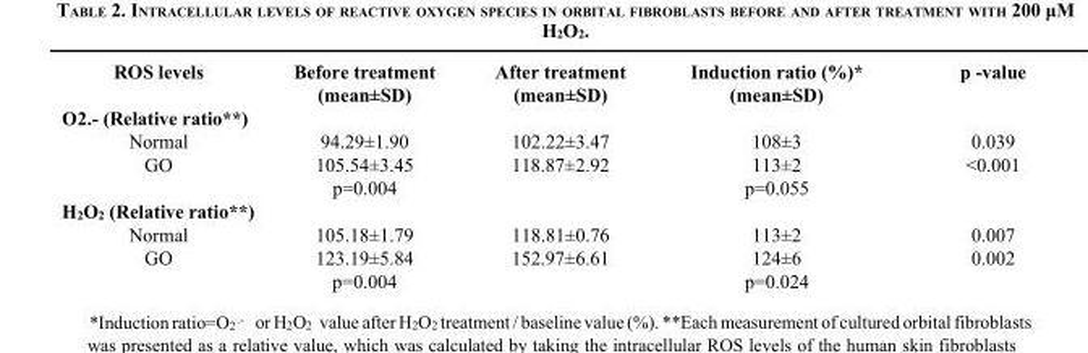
<table><thead><tr><td>ROS levels</td><td>Before treatment (mean±SD)</td><td>After treatment (mean±SD)</td><td>Induction ratio (%)* (mean±SD)</td><td>p -value</td></tr></thead><tbody><tr><td colspan="5">O2.- (Relative ratio**)</td></tr><tr><td>Normal</td><td>94.29±1.90</td><td>102.22±3.47</td><td>108±3</td><td>0.039</td></tr><tr><td rowspan="2">GO</td><td>105.54±3.45</td><td>118.87±2.92</td><td>113±2</td><td>&lt;0.001</td></tr><tr><td>p=0.004</td><td></td><td>p=0.055</td><td></td></tr><tr><td colspan="5">H<sub>2</sub>O<sub>2</sub> (Relative ratio**)</td></tr><tr><td>Normal</td><td>105.18±1.79</td><td>118.81±0.76</td><td>113±2</td><td>0.007</td></tr><tr><td rowspan="2">GO</td><td>123.19±5.84</td><td>152.97±6.61</td><td>124±6</td><td>0.002</td></tr><tr><td>p=0.004</td><td></td><td>p=0.024</td><td></td></tr></tbody></table>